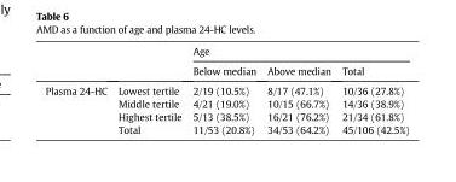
<table><thead><tr><td rowspan="2"></td><td rowspan="2"></td><td colspan="3">Age</td></tr><tr><td>Below median</td><td>Above median</td><td>Total</td></tr></thead><tbody><tr><td rowspan="4">Plasma 24-HC</td><td>Lowest tertile</td><td>2/19 (10.5%)</td><td>8/17 (47.1%)</td><td>10/36 (27.8%)</td></tr><tr><td>Middle tertile</td><td>4/21 (19.0%)</td><td>10/15 (66.7%)</td><td>14/36 (38.9%)</td></tr><tr><td>Highest tertile</td><td>5/13 (38.5%)</td><td>16/21 (76.2%)</td><td>21/34 (61.8%)</td></tr><tr><td>Total</td><td>11/53 (20.8%)</td><td>34/53 (64.2%)</td><td>45/106 (42.5%)</td></tr></tbody></table>